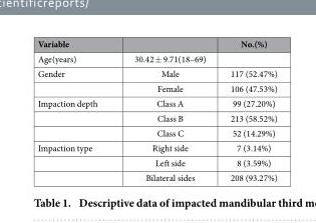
<table><thead><tr><td>Variable</td><td></td><td>No.(%)</td></tr></thead><tbody><tr><td>Age(years)</td><td>30.42 ± 9.71(18–69)</td><td></td></tr><tr><td rowspan="2">Gender</td><td>Male</td><td>117 (52.47%)</td></tr><tr><td>Female</td><td>106 (47.53%)</td></tr><tr><td rowspan="3">Impaction depth</td><td>Class A</td><td>99 (27.20%)</td></tr><tr><td>Class B</td><td>213 (58.52%)</td></tr><tr><td>Class C</td><td>52 (14.29%)</td></tr><tr><td rowspan="3">Impaction type</td><td>Right side</td><td>7 (3.14%)</td></tr><tr><td>Left side</td><td>8 (3.59%)</td></tr><tr><td>Bilateral sides</td><td>208 (93.27%)</td></tr></tbody></table>